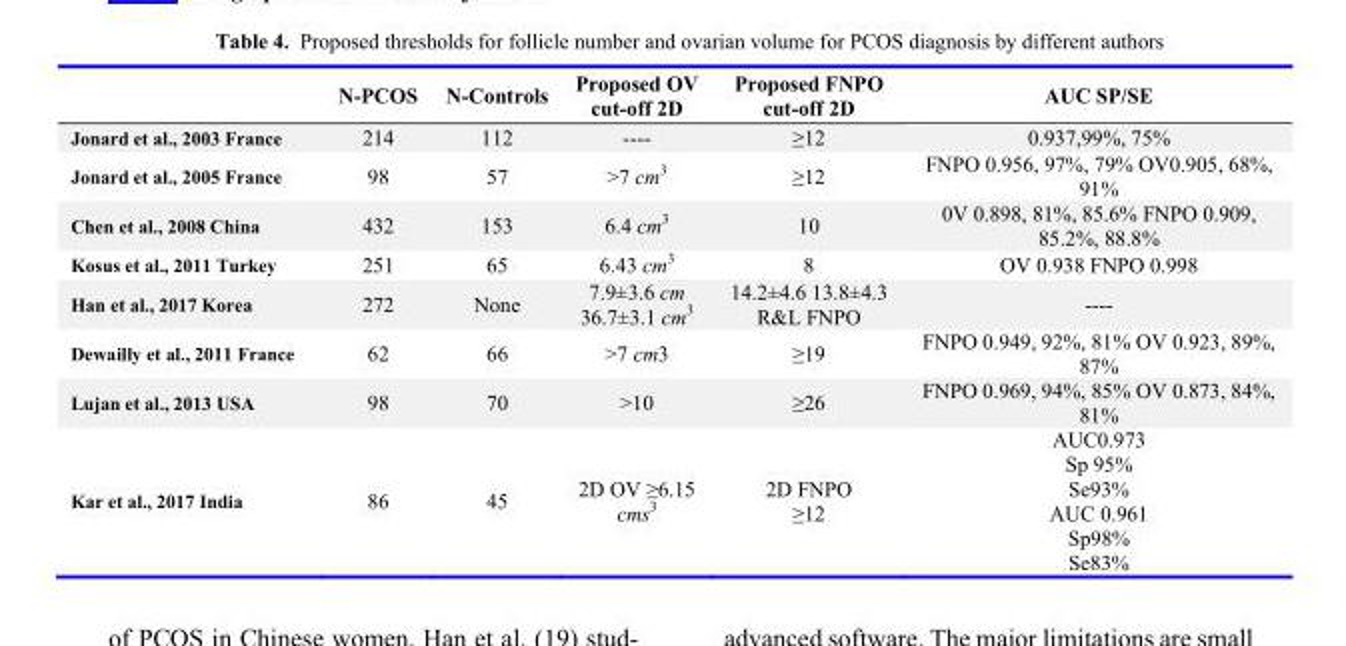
<table><thead><tr><td></td><td>N-PCOS</td><td>N-Controls</td><td>Proposed OV cut-off 2D</td><td colspan="2">Proposed FNPO cut-off 2D</td><td>AUC SP/SE</td></tr></thead><tbody><tr><td>Jonard et al., 2003 France</td><td>214</td><td>112</td><td>----</td><td colspan="2">≥12</td><td>0.937,99%, 75%</td></tr><tr><td>Jonard et al., 2005 France</td><td>98</td><td>57</td><td>&gt;7 cm<sup>3</sup></td><td colspan="2">≥12</td><td>FNPO 0.956, 97%, 79% OV0.905, 68%, 91%</td></tr><tr><td>Chen et al., 2008 China</td><td>432</td><td>153</td><td>6.4 cm<sup>3</sup></td><td colspan="2">10</td><td>0V 0.898, 81%, 85.6% FNPO 0.909, 85.2%, 88.8%</td></tr><tr><td>Kosus et al., 2011 Turkey</td><td>251</td><td>65</td><td>6.43 cm<sup>3</sup></td><td colspan="2">8</td><td>OV 0.938 FNPO 0.998</td></tr><tr><td rowspan="2">Han et al., 2017 Korea</td><td rowspan="2">272</td><td rowspan="2">None</td><td rowspan="2">7.9±3.6 cm 36.7±3.1 cm<sup>3</sup></td><td>14.2±4.6</td><td>13.8±4.3</td><td rowspan="2">----</td></tr><tr><td>R&amp;L</td><td>FNPO</td></tr><tr><td>Dewailly et al., 2011 France</td><td>62</td><td>66</td><td>&gt;7 cm<sup>3</sup></td><td colspan="2">≥19</td><td>FNPO 0.949, 92%, 81% OV 0.923, 89%, 87%</td></tr><tr><td>Lujan et al., 2013 USA</td><td>98</td><td>70</td><td>&gt;10</td><td colspan="2">≥26</td><td>FNPO 0.969, 94%, 85% OV 0.873, 84%, 81%</td></tr><tr><td>Kar et al., 2017 India</td><td>86</td><td>45</td><td>2D OV ≥6.15 cms<sup>3</sup></td><td colspan="2">2D FNPO ≥12</td><td>AUC0.973 Sp 95% Se93% AUC 0.961 Sp98% Se83%</td></tr></tbody></table>